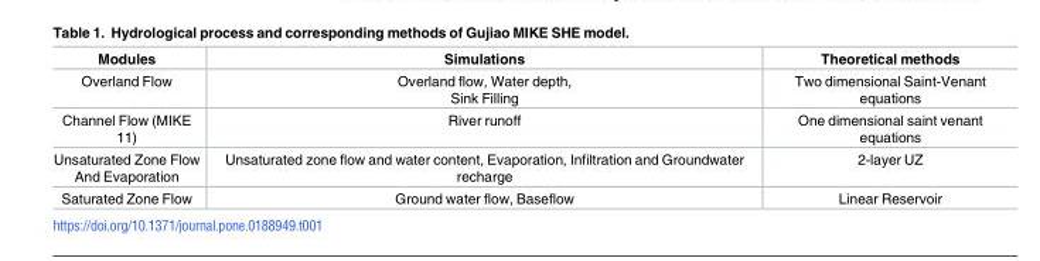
<table><thead><tr><td>Modules</td><td>Simulations</td><td>Theoretical methods</td></tr></thead><tbody><tr><td>Overland Flow</td><td>Overland flow, Water depth, Sink Filling</td><td>Two dimensional Saint-Venant equations</td></tr><tr><td>Channel Flow (MIKE 11)</td><td>River runoff</td><td>One dimensional saint venant equations</td></tr><tr><td>Unsaturated Zone Flow And Evaporation</td><td>Unsaturated zone flow and water content, Evaporation, Infiltration and Groundwater recharge</td><td>2-layer UZ</td></tr><tr><td>Saturated Zone Flow</td><td>Ground water flow, Baseflow</td><td>Linear Reservoir</td></tr></tbody></table>